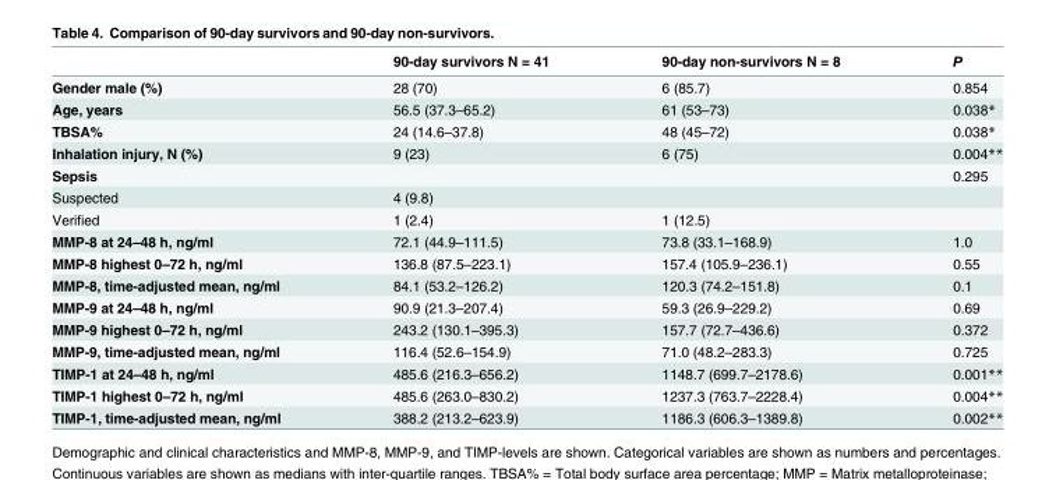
<table><thead><tr><td></td><td>90-day survivors N = 41</td><td>90-day non-survivors N = 8</td><td>P</td></tr></thead><tbody><tr><td>Gender male (%)</td><td>28 (70)</td><td>6 (85.7)</td><td>0.854</td></tr><tr><td>Age, years</td><td>56.5 (37.3–65.2)</td><td>61 (53–73)</td><td>0.038*</td></tr><tr><td>TBSA%</td><td>24 (14.6–37.8)</td><td>48 (45–72)</td><td>0.038*</td></tr><tr><td>Inhalation injury, N (%)</td><td>9 (23)</td><td>6 (75)</td><td>0.004**</td></tr><tr><td>Sepsis</td><td></td><td></td><td>0.295</td></tr><tr><td>Suspected</td><td>4 (9.8)</td><td></td><td></td></tr><tr><td>Verified</td><td>1 (2.4)</td><td>1 (12.5)</td><td></td></tr><tr><td>MMP-8 at 24–48 h, ng/ml</td><td>72.1 (44.9–111.5)</td><td>73.8 (33.1–168.9)</td><td>1.0</td></tr><tr><td>MMP-8 highest 0–72 h, ng/ml</td><td>136.8 (87.5–223.1)</td><td>157.4 (105.9–236.1)</td><td>0.55</td></tr><tr><td>MMP-8, time-adjusted mean, ng/ml</td><td>84.1 (53.2–126.2)</td><td>120.3 (74.2–151.8)</td><td>0.1</td></tr><tr><td>MMP-9 at 24–48 h, ng/ml</td><td>90.9 (21.3–207.4)</td><td>59.3 (26.9–229.2)</td><td>0.69</td></tr><tr><td>MMP-9 highest 0–72 h, ng/ml</td><td>243.2 (130.1–395.3)</td><td>157.7 (72.7–436.6)</td><td>0.372</td></tr><tr><td>MMP-9, time-adjusted mean, ng/ml</td><td>116.4 (52.6–154.9)</td><td>71.0 (48.2–283.3)</td><td>0.725</td></tr><tr><td>TIMP-1 at 24–48 h, ng/ml</td><td>485.6 (216.3–656.2)</td><td>1148.7 (699.7–2178.6)</td><td>0.001**</td></tr><tr><td>TIMP-1 highest 0–72 h, ng/ml</td><td>485.6 (263.0–830.2)</td><td>1237.3 (763.7–2228.4)</td><td>0.004**</td></tr><tr><td>TIMP-1, time-adjusted mean, ng/ml</td><td>388.2 (213.2–623.9)</td><td>1186.3 (606.3–1389.8)</td><td>0.002**</td></tr></tbody></table>